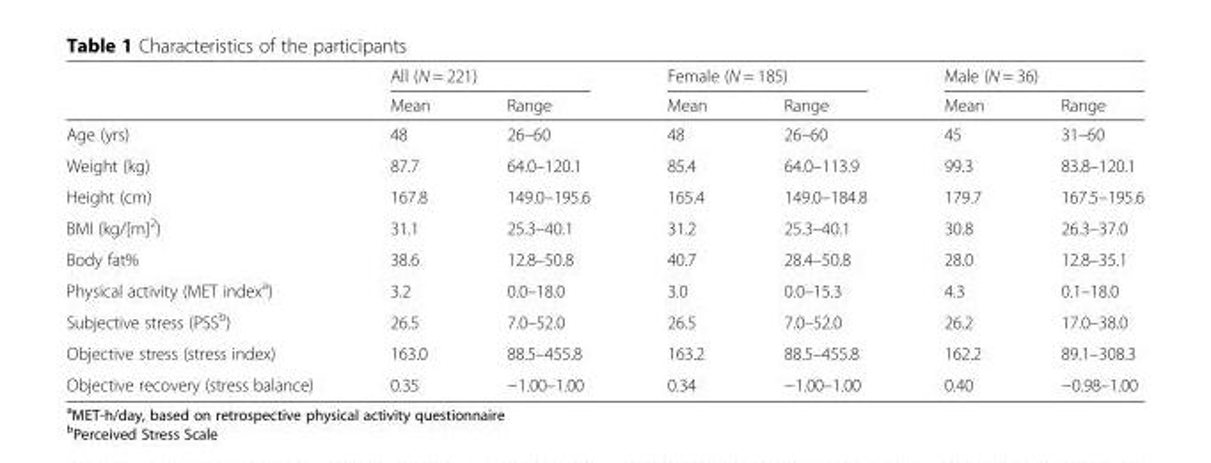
<table><thead><tr><td rowspan="2"></td><td colspan="2">All (N = 221)</td><td colspan="2">Female (N = 185)</td><td colspan="2">Male (N = 36)</td></tr><tr><td>Mean</td><td>Range</td><td>Mean</td><td>Range</td><td>Mean</td><td>Range</td></tr></thead><tbody><tr><td>Age (yrs)</td><td>48</td><td>26–60</td><td>48</td><td>26–60</td><td>45</td><td>31–60</td></tr><tr><td>Weight (kg)</td><td>87.7</td><td>64.0–120.1</td><td>85.4</td><td>64.0–113.9</td><td>99.3</td><td>83.8–120.1</td></tr><tr><td>Height (cm)</td><td>167.8</td><td>149.0–195.6</td><td>165.4</td><td>149.0–184.8</td><td>179.7</td><td>167.5–195.6</td></tr><tr><td>BMI (kg/[m]<sup>2</sup>)</td><td>31.1</td><td>25.3–40.1</td><td>31.2</td><td>25.3–40.1</td><td>30.8</td><td>26.3–37.0</td></tr><tr><td>Body fat%</td><td>38.6</td><td>12.8–50.8</td><td>40.7</td><td>28.4–50.8</td><td>28.0</td><td>12.8–35.1</td></tr><tr><td>Physical activity (MET index<sup>a</sup>)</td><td>3.2</td><td>0.0–18.0</td><td>3.0</td><td>0.0–15.3</td><td>4.3</td><td>0.1–18.0</td></tr><tr><td>Subjective stress (PSS<sup>b</sup>)</td><td>26.5</td><td>7.0–52.0</td><td>26.5</td><td>7.0–52.0</td><td>26.2</td><td>17.0–38.0</td></tr><tr><td>Objective stress (stress index)</td><td>163.0</td><td>88.5–455.8</td><td>163.2</td><td>88.5–455.8</td><td>162.2</td><td>89.1–308.3</td></tr><tr><td>Objective recovery (stress balance)</td><td>0.35</td><td>−1.00–1.00</td><td>0.34</td><td>−1.00–1.00</td><td>0.40</td><td>−0.98–1.00</td></tr></tbody></table>